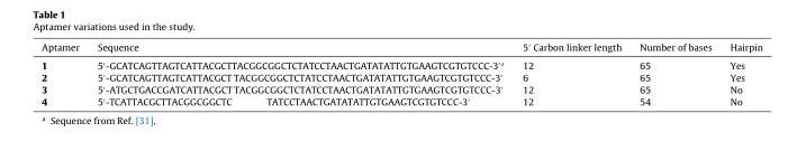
<table><thead><tr><td>Aptamer</td><td>Sequence</td><td>5′ Carbon linker length</td><td>Number of bases</td><td>Hairpin</td></tr></thead><tbody><tr><td>1</td><td>5′-GCATCAGTTAGTCATTACGCTTACGGCGGCTCTATCCTAACTGATATATTGTGAAGTCGTGTCCC-3′<sup>a</sup></td><td>12</td><td>65</td><td>Yes</td></tr><tr><td>2</td><td>5′-GCATCAGTTAGTCATTACGCT TACGGCGGCTCTATCCTAACTGATATATTGTGAAGTCGTGTCCC-3′</td><td>6</td><td>65</td><td>Yes</td></tr><tr><td>3</td><td>5′-ATGCTGACCGATCATTACGCT TACGGCGGCTCTATCCTAACTGATATATTGTGAAGTCGTGTCCC-3′</td><td>12</td><td>65</td><td>No</td></tr><tr><td>4</td><td>5′-TCATTACGCTTACGGCGGCTC TATCCTAACTGATATATTGTGAAGTCGTGTCCC-3′</td><td>12</td><td>54</td><td>No</td></tr></tbody></table>